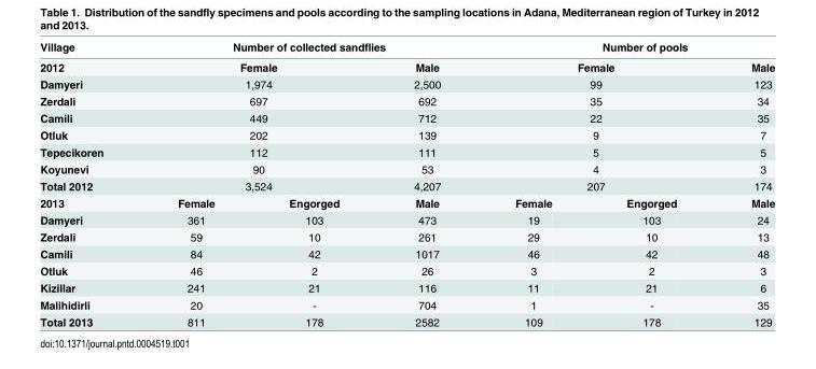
<table><thead><tr><td>Village</td><td colspan="3">Number of collected sandflies</td><td colspan="3">Number of pools</td></tr></thead><tbody><tr><td>2012</td><td colspan="2">Female</td><td>Male</td><td colspan="2">Female</td><td>Male</td></tr><tr><td>Damyeri</td><td colspan="2">1,974</td><td>2,500</td><td colspan="2">99</td><td>123</td></tr><tr><td>Zerdali</td><td colspan="2">697</td><td>692</td><td colspan="2">35</td><td>34</td></tr><tr><td>Camili</td><td colspan="2">449</td><td>712</td><td colspan="2">22</td><td>35</td></tr><tr><td>Otluk</td><td colspan="2">202</td><td>139</td><td colspan="2">9</td><td>7</td></tr><tr><td>Tepecikoren</td><td colspan="2">112</td><td>111</td><td colspan="2">5</td><td>5</td></tr><tr><td>Koyunevi</td><td colspan="2">90</td><td>53</td><td colspan="2">4</td><td>3</td></tr><tr><td>Total 2012</td><td colspan="2">3,524</td><td>4,207</td><td colspan="2">207</td><td>174</td></tr><tr><td>2013</td><td>Female</td><td>Engorged</td><td>Male</td><td>Female</td><td>Engorged</td><td>Male</td></tr><tr><td>Damyeri</td><td>361</td><td>103</td><td>473</td><td>19</td><td>103</td><td>24</td></tr><tr><td>Zerdali</td><td>59</td><td>10</td><td>261</td><td>29</td><td>10</td><td>13</td></tr><tr><td>Camili</td><td>84</td><td>42</td><td>1017</td><td>46</td><td>42</td><td>48</td></tr><tr><td>Otluk</td><td>46</td><td>2</td><td>26</td><td>3</td><td>2</td><td>3</td></tr><tr><td>Kizillar</td><td>241</td><td>21</td><td>116</td><td>11</td><td>21</td><td>6</td></tr><tr><td>Malihidirli</td><td>20</td><td>-</td><td>704</td><td>1</td><td>-</td><td>35</td></tr><tr><td>Total 2013</td><td>811</td><td>178</td><td>2582</td><td>109</td><td>178</td><td>129</td></tr></tbody></table>